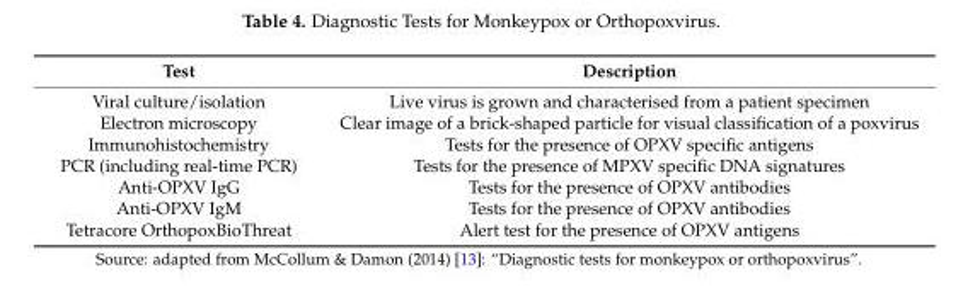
<table><thead><tr><td>Test</td><td>Description</td></tr></thead><tbody><tr><td>Viral culture/isolation</td><td>Live virus is grown and characterised from a patient specimen</td></tr><tr><td>Electron microscopy</td><td>Clear image of a brick-shaped particle for visual classification of a poxvirus</td></tr><tr><td>Immunohistochemistry</td><td>Tests for the presence of OPXV specific antigens</td></tr><tr><td>PCR (including real-time PCR)</td><td>Tests for the presence of MPXV specific DNA signatures</td></tr><tr><td>Anti-OPXV IgG</td><td>Tests for the presence of OPXV antibodies</td></tr><tr><td>Anti-OPXV IgM</td><td>Tests for the presence of OPXV antibodies</td></tr><tr><td>Tetracore OrthopoxBioThreat</td><td>Alert test for the presence of OPXV antigens</td></tr></tbody></table>